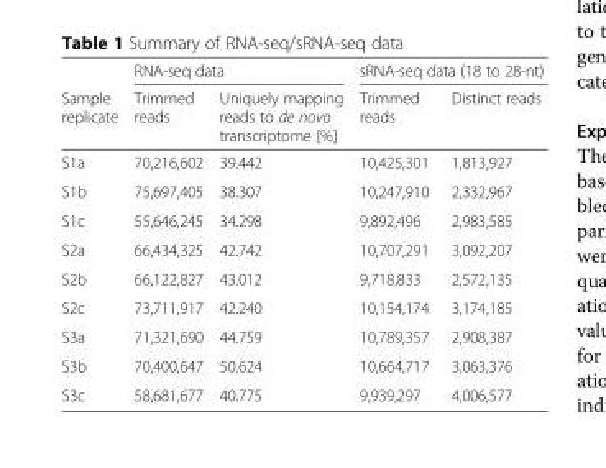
<table><thead><tr><td rowspan="2">Sample replicate</td><td colspan="2">RNA-seq data</td><td colspan="2">sRNA-seq data (18 to 28-nt)</td></tr><tr><td>Trimmed reads</td><td>Uniquely mapping reads to de novo transcriptome [%]</td><td>Trimmed reads</td><td>Distinct reads</td></tr></thead><tbody><tr><td>S1a</td><td>70,216,602</td><td>39.442</td><td>10,425,301</td><td>1,813,927</td></tr><tr><td>S1b</td><td>75,697,405</td><td>38.307</td><td>10,247,910</td><td>2,332,967</td></tr><tr><td>S1c</td><td>55,646,245</td><td>34.298</td><td>9,892,496</td><td>2,983,585</td></tr><tr><td>S2a</td><td>66,434,325</td><td>42.742</td><td>10,707,291</td><td>3,092,207</td></tr><tr><td>S2b</td><td>66,122,827</td><td>43.012</td><td>9,718,833</td><td>2,572,135</td></tr><tr><td>S2c</td><td>73,711,917</td><td>42.240</td><td>10,154,174</td><td>3,174,185</td></tr><tr><td>S3a</td><td>71,321,690</td><td>44.759</td><td>10,789,357</td><td>2,908,387</td></tr><tr><td>S3b</td><td>70,400,647</td><td>50.624</td><td>10,664,717</td><td>3,063,376</td></tr><tr><td>S3c</td><td>58,681,677</td><td>40.775</td><td>9,939,297</td><td>4,006,577</td></tr></tbody></table>